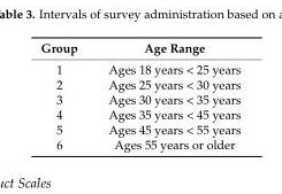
<table><thead><tr><td>Group</td><td>Age Range</td></tr></thead><tbody><tr><td>1</td><td>Ages 18 years &lt; 25 years</td></tr><tr><td>2</td><td>Ages 25 years &lt; 30 years</td></tr><tr><td>3</td><td>Ages 30 years &lt; 35 years</td></tr><tr><td>4</td><td>Ages 35 years &lt; 45 years</td></tr><tr><td>5</td><td>Ages 45 years &lt; 55 years</td></tr><tr><td>6</td><td>Ages 55 years or older</td></tr></tbody></table>